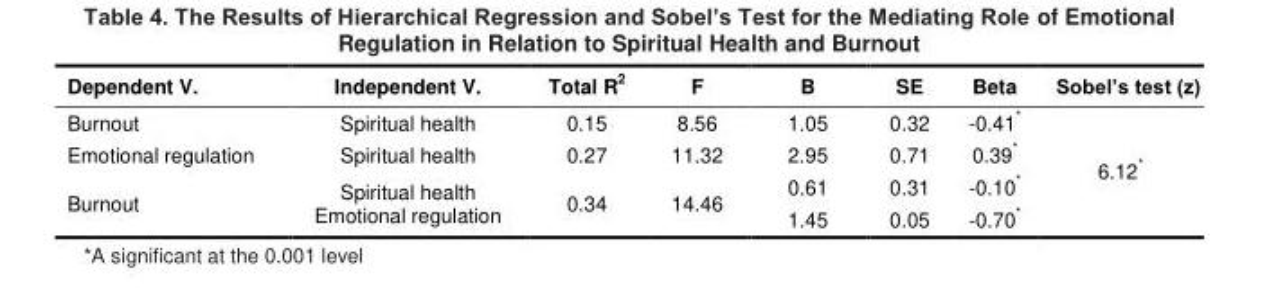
<table><thead><tr><td>Dependent V.</td><td>Independent V.</td><td>Total R<sup>2</sup></td><td>F</td><td>B</td><td>SE</td><td>Beta</td><td>Sobel’s test (z)</td></tr></thead><tbody><tr><td>Burnout</td><td>Spiritual health</td><td>0.15</td><td>8.56</td><td>1.05</td><td>0.32</td><td>-0.41*</td><td rowspan="4">6.12*</td></tr><tr><td>Emotional regulation</td><td>Spiritual health</td><td>0.27</td><td>11.32</td><td>2.95</td><td>0.71</td><td>0.39*</td></tr><tr><td rowspan="2">Burnout</td><td rowspan="2">Spiritual health Emotional regulation</td><td rowspan="2">0.34</td><td rowspan="2">14.46</td><td>0.61</td><td>0.31</td><td>-0.10*</td></tr><tr><td>1.45</td><td>0.05</td><td>-0.70*</td></tr></tbody></table>